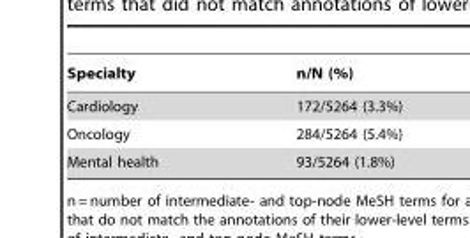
<table><thead><tr><td>Specialty</td><td>n/N (%)</td></tr></thead><tbody><tr><td>Cardiology</td><td>172/5264 (3.3%)</td></tr><tr><td>Oncology</td><td>284/5264 (5.4%)</td></tr><tr><td>Mental health</td><td>93/5264 (1.8%)</td></tr></tbody></table>